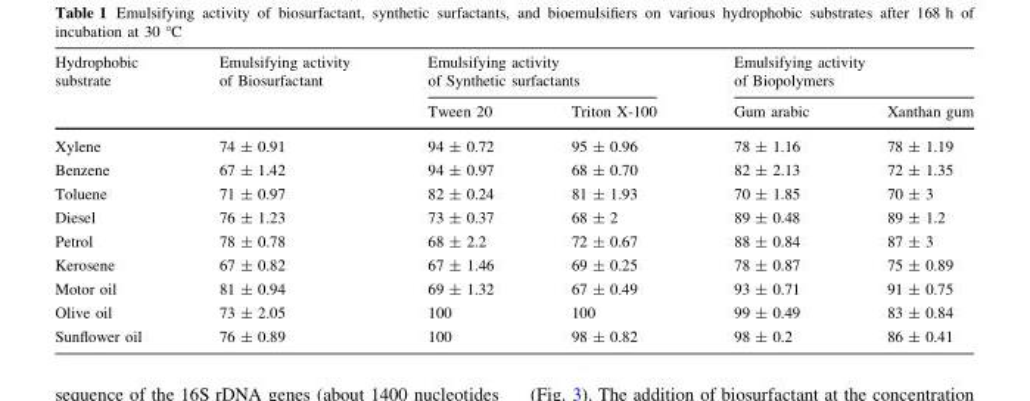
<table><thead><tr><td rowspan="2">Hydrophobic substrate</td><td rowspan="2">Emulsifying activity of Biosurfactant</td><td colspan="2">Emulsifying activity of Synthetic surfactants</td><td colspan="2">Emulsifying activity of Biopolymers</td></tr><tr><td>Tween 20</td><td>Triton X-100</td><td>Gum arabic</td><td>Xanthan gum</td></tr></thead><tbody><tr><td>Xylene</td><td>74 ± 0.91</td><td>94 ± 0.72</td><td>95 ± 0.96</td><td>78 ± 1.16</td><td>78 ± 1.19</td></tr><tr><td>Benzene</td><td>67 ± 1.42</td><td>94 ± 0.97</td><td>68 ± 0.70</td><td>82 ± 2.13</td><td>72 ± 1.35</td></tr><tr><td>Toluene</td><td>71 ± 0.97</td><td>82 ± 0.24</td><td>81 ± 1.93</td><td>70 ± 1.85</td><td>70 ± 3</td></tr><tr><td>Diesel</td><td>76 ± 1.23</td><td>73 ± 0.37</td><td>68 ± 2</td><td>89 ± 0.48</td><td>89 ± 1.2</td></tr><tr><td>Petrol</td><td>78 ± 0.78</td><td>68 ± 2.2</td><td>72 ± 0.67</td><td>88 ± 0.84</td><td>87 ± 3</td></tr><tr><td>Kerosene</td><td>67 ± 0.82</td><td>67 ± 1.46</td><td>69 ± 0.25</td><td>78 ± 0.87</td><td>75 ± 0.89</td></tr><tr><td>Motor oil</td><td>81 ± 0.94</td><td>69 ± 1.32</td><td>67 ± 0.49</td><td>93 ± 0.71</td><td>91 ± 0.75</td></tr><tr><td>Olive oil</td><td>73 ± 2.05</td><td>100</td><td>100</td><td>99 ± 0.49</td><td>83 ± 0.84</td></tr><tr><td>Sunflower oil</td><td>76 ± 0.89</td><td>100</td><td>98 ± 0.82</td><td>98 ± 0.2</td><td>86 ± 0.41</td></tr></tbody></table>